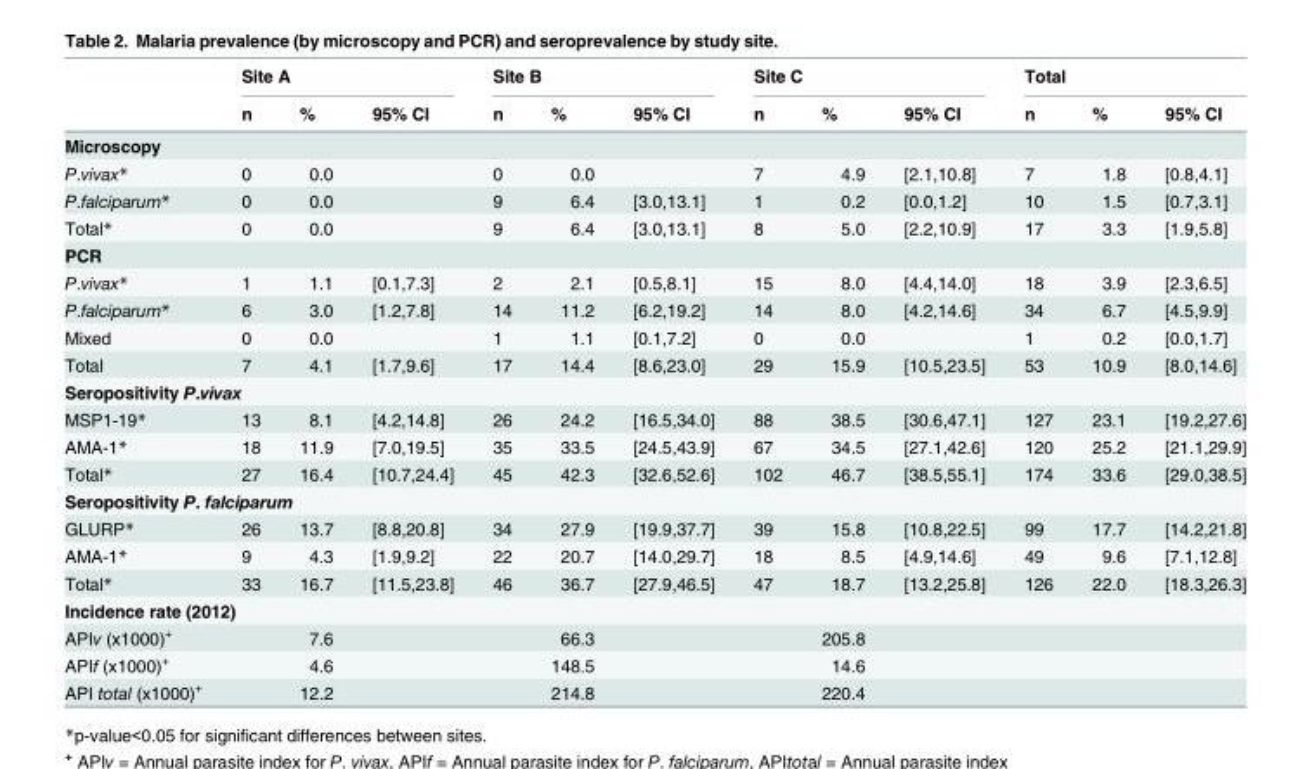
<table><thead><tr><td rowspan="2"></td><td colspan="3">Site A</td><td colspan="3">Site B</td><td colspan="3">Site C</td><td colspan="3">Total</td></tr><tr><td>n</td><td>%</td><td>95% CI</td><td>n</td><td>%</td><td>95% CI</td><td>n</td><td>%</td><td>95% CI</td><td>n</td><td>%</td><td>95% CI</td></tr></thead><tbody><tr><td colspan="13">Microscopy</td></tr><tr><td>P.vivax*</td><td>0</td><td>0.0</td><td></td><td>0</td><td>0.0</td><td></td><td>7</td><td>4.9</td><td>[2.1,10.8]</td><td>7</td><td>1.8</td><td>[0.8,4.1]</td></tr><tr><td>P.falciparum*</td><td>0</td><td>0.0</td><td></td><td>9</td><td>6.4</td><td>[3.0,13.1]</td><td>1</td><td>0.2</td><td>[0.0,1.2]</td><td>10</td><td>1.5</td><td>[0.7,3.1]</td></tr><tr><td>Total*</td><td>0</td><td>0.0</td><td></td><td>9</td><td>6.4</td><td>[3.0,13.1]</td><td>8</td><td>5.0</td><td>[2.2,10.9]</td><td>17</td><td>3.3</td><td>[1.9,5.8]</td></tr><tr><td colspan="13">PCR</td></tr><tr><td>P.vivax*</td><td>1</td><td>1.1</td><td>[0.1,7.3]</td><td>2</td><td>2.1</td><td>[0.5,8.1]</td><td>15</td><td>8.0</td><td>[4.4,14.0]</td><td>18</td><td>3.9</td><td>[2.3,6.5]</td></tr><tr><td>P.falciparum*</td><td>6</td><td>3.0</td><td>[1.2,7.8]</td><td>14</td><td>11.2</td><td>[6.2,19.2]</td><td>14</td><td>8.0</td><td>[4.2,14.6]</td><td>34</td><td>6.7</td><td>[4.5,9.9]</td></tr><tr><td>Mixed</td><td>0</td><td>0.0</td><td></td><td>1</td><td>1.1</td><td>[0.1,7.2]</td><td>0</td><td>0.0</td><td></td><td>1</td><td>0.2</td><td>[0.0,1.7]</td></tr><tr><td>Total</td><td>7</td><td>4.1</td><td>[1.7,9.6]</td><td>17</td><td>14.4</td><td>[8.6,23.0]</td><td>29</td><td>15.9</td><td>[10.5,23.5]</td><td>53</td><td>10.9</td><td>[8.0,14.6]</td></tr><tr><td colspan="13">Seropositivity P.vivax</td></tr><tr><td>MSP1-19*</td><td>13</td><td>8.1</td><td>[4.2,14.8]</td><td>26</td><td>24.2</td><td>[16.5,34.0]</td><td>88</td><td>38.5</td><td>[30.6,47.1]</td><td>127</td><td>23.1</td><td>[19.2,27.6]</td></tr><tr><td>AMA-1*</td><td>18</td><td>11.9</td><td>[7.0,19.5]</td><td>35</td><td>33.5</td><td>[24.5,43.9]</td><td>67</td><td>34.5</td><td>[27.1,42.6]</td><td>120</td><td>25.2</td><td>[21.1,29.9]</td></tr><tr><td>Total*</td><td>27</td><td>16.4</td><td>[10.7,24.4]</td><td>45</td><td>42.3</td><td>[32.6,52.6]</td><td>102</td><td>46.7</td><td>[38.5,55.1]</td><td>174</td><td>33.6</td><td>[29.0,38.5]</td></tr><tr><td colspan="13">Seropositivity P. falciparum</td></tr><tr><td>GLURP*</td><td>26</td><td>13.7</td><td>[8.8,20.8]</td><td>34</td><td>27.9</td><td>[19.9,37.7]</td><td>39</td><td>15.8</td><td>[10.8,22.5]</td><td>99</td><td>17.7</td><td>[14.2,21.8]</td></tr><tr><td>AMA-1*</td><td>9</td><td>4.3</td><td>[1.9,9.2]</td><td>22</td><td>20.7</td><td>[14.0,29.7]</td><td>18</td><td>8.5</td><td>[4.9,14.6]</td><td>49</td><td>9.6</td><td>[7.1,12.8]</td></tr><tr><td>Total*</td><td>33</td><td>16.7</td><td>[11.5,23.8]</td><td>46</td><td>36.7</td><td>[27.9,46.5]</td><td>47</td><td>18.7</td><td>[13.2,25.8]</td><td>126</td><td>22.0</td><td>[18.3,26.3]</td></tr><tr><td colspan="13">Incidence rate (2012)</td></tr><tr><td>APIv (x1000)<sup>+</sup></td><td></td><td>7.6</td><td></td><td></td><td>66.3</td><td></td><td></td><td>205.8</td><td></td><td></td><td></td><td></td></tr><tr><td>APIf (x1000)<sup>+</sup></td><td></td><td>4.6</td><td></td><td></td><td>148.5</td><td></td><td></td><td>14.6</td><td></td><td></td><td></td><td></td></tr><tr><td>API total (x1000)<sup>+</sup></td><td></td><td>12.2</td><td></td><td></td><td>214.8</td><td></td><td></td><td>220.4</td><td></td><td></td><td></td><td></td></tr></tbody></table>